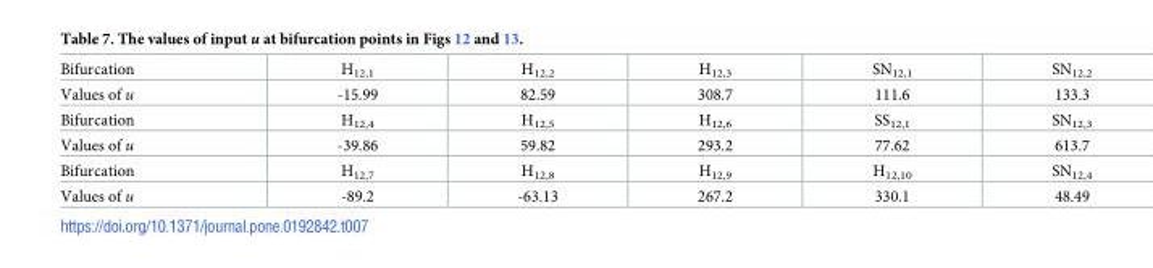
<table><tbody><tr><td>Bifurcation</td><td>H<sub>12,1</sub></td><td>H<sub>12,2</sub></td><td>H<sub>12,3</sub></td><td>SN<sub>12,1</sub></td><td>SN<sub>12,2</sub></td></tr><tr><td>Values of u</td><td>-15.99</td><td>82.59</td><td>308.7</td><td>111.6</td><td>133.3</td></tr><tr><td>Bifurcation</td><td>H<sub>12,4</sub></td><td>H<sub>12,5</sub></td><td>H<sub>12,6</sub></td><td>SS<sub>12,1</sub></td><td>SN<sub>12,3</sub></td></tr><tr><td>Values of u</td><td>-39.86</td><td>59.82</td><td>293.2</td><td>77.62</td><td>613.7</td></tr><tr><td>Bifurcation</td><td>H<sub>12,7</sub></td><td>H<sub>12,8</sub></td><td>H<sub>12,9</sub></td><td>H<sub>12,10</sub></td><td>SN<sub>12,4</sub></td></tr><tr><td>Values of u</td><td>-89.2</td><td>-63.13</td><td>267.2</td><td>330.1</td><td>48.49</td></tr></tbody></table>